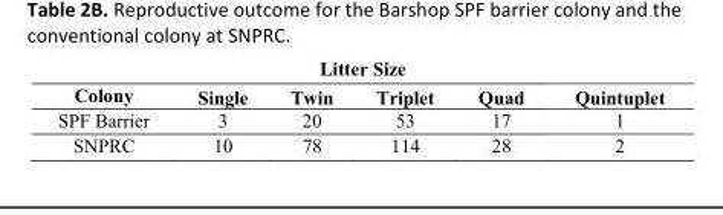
<table><thead><tr><td colspan="6">Litter Size</td></tr><tr><td>Colony</td><td>Single</td><td>Twin</td><td>Triplet</td><td>Quad</td><td>Quintuplet</td></tr></thead><tbody><tr><td>SPF Barrier</td><td>3</td><td>20</td><td>53</td><td>17</td><td>1</td></tr><tr><td>SNPRC</td><td>10</td><td>78</td><td>114</td><td>28</td><td>2</td></tr></tbody></table>